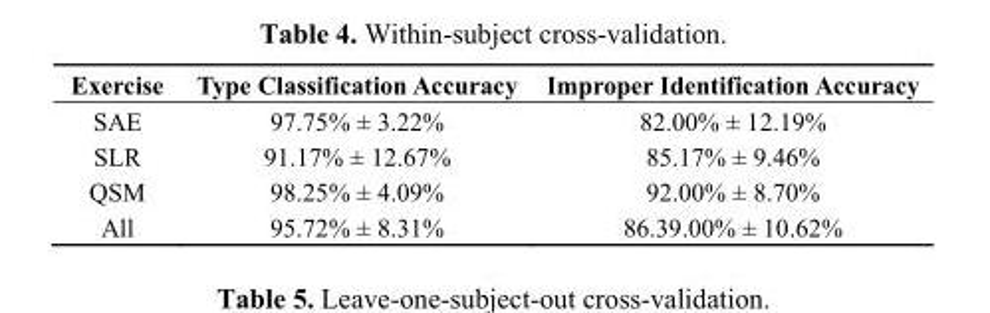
<table><thead><tr><td>Exercise</td><td>Type Classification Accuracy</td><td>Improper Identification Accuracy</td></tr></thead><tbody><tr><td>SAE</td><td>97.75% ± 3.22%</td><td>82.00% ± 12.19%</td></tr><tr><td>SLR</td><td>91.17% ± 12.67%</td><td>85.17% ± 9.46%</td></tr><tr><td>QSM</td><td>98.25% ± 4.09%</td><td>92.00% ± 8.70%</td></tr><tr><td>All</td><td>95.72% ± 8.31%</td><td>86.39.00% ± 10.62%</td></tr></tbody></table>